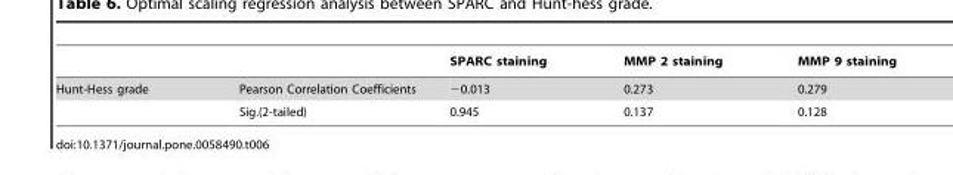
<table><thead><tr><td></td><td></td><td>SPARC staining</td><td>MMP 2 staining</td><td>MMP 9 staining</td></tr></thead><tbody><tr><td rowspan="2">Hunt-Hess grade</td><td>Pearson Correlation Coefficients</td><td>−0.013</td><td>0.273</td><td>0.279</td></tr><tr><td>Sig.(2-tailed)</td><td>0.945</td><td>0.137</td><td>0.128</td></tr></tbody></table>